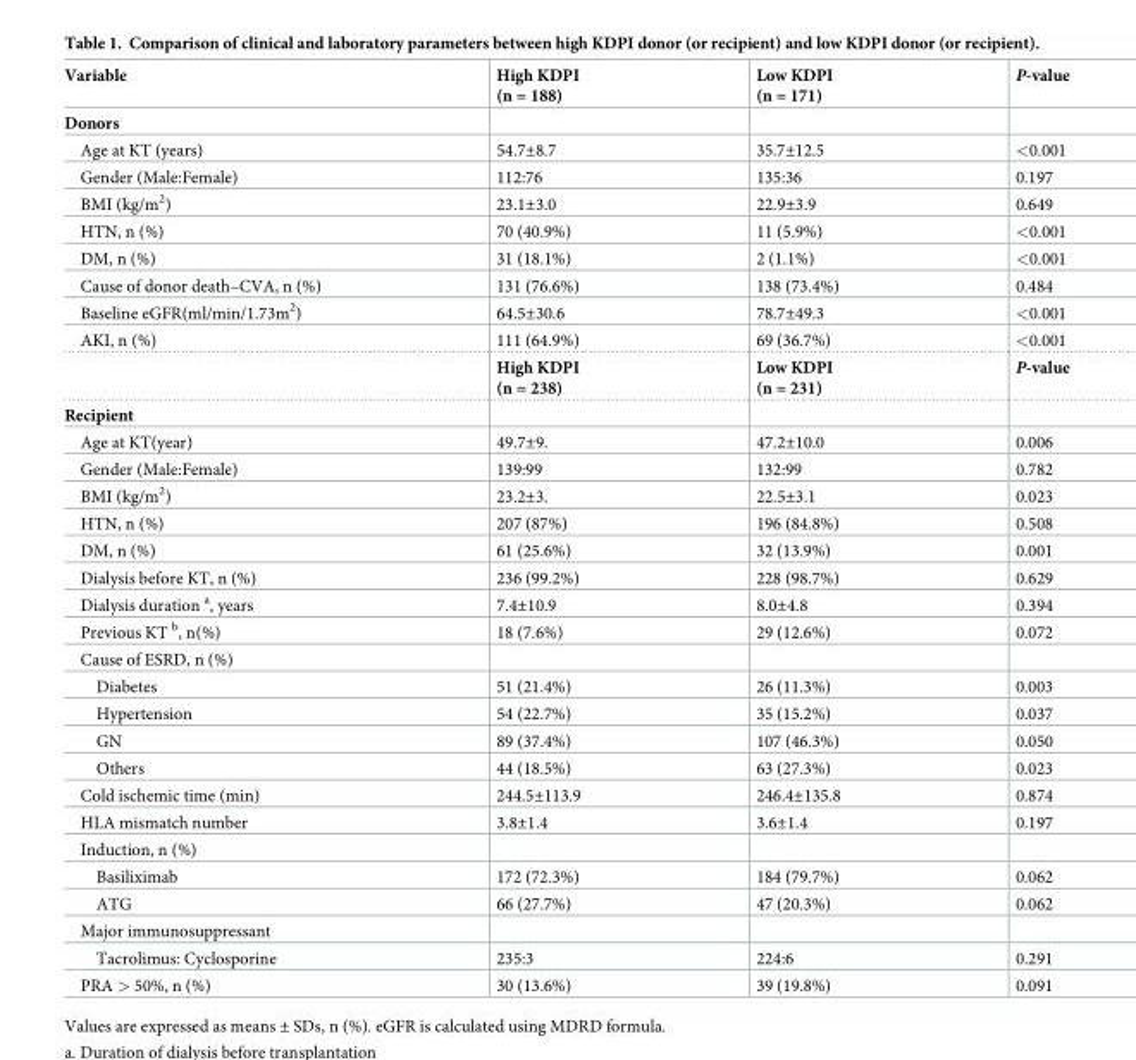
<table><tbody><tr><td>Variable</td><td>High KDPI (n = 188)</td><td>Low KDPI (n = 171)</td><td>P-value</td></tr><tr><td colspan="4">Donors</td></tr><tr><td>Age at KT (years)</td><td>54.7±8.7</td><td>35.7±12.5</td><td>&lt;0.001</td></tr><tr><td>Gender (Male:Female)</td><td>112:76</td><td>135:36</td><td>0.197</td></tr><tr><td>BMI (kg/m<sup>2</sup>)</td><td>23.1±3.0</td><td>22.9±3.9</td><td>0.649</td></tr><tr><td>HTN, n (%)</td><td>70 (40.9%)</td><td>11 (5.9%)</td><td>&lt;0.001</td></tr><tr><td>DM, n (%)</td><td>31 (18.1%)</td><td>2 (1.1%)</td><td>&lt;0.001</td></tr><tr><td>Cause of donor death–CVA, n (%)</td><td>131 (76.6%)</td><td>138 (73.4%)</td><td>0.484</td></tr><tr><td>Baseline eGFR(ml/min/1.73m<sup>2</sup>)</td><td>64.5±30.6</td><td>78.7±49.3</td><td>&lt;0.001</td></tr><tr><td rowspan="2">AKI, n (%)</td><td>111 (64.9%)</td><td>69 (36.7%)</td><td>&lt;0.001</td></tr><tr><td>High KDPI (n = 238)</td><td>Low KDPI (n = 231)</td><td>P-value</td></tr><tr><td colspan="4">Recipient</td></tr><tr><td>Age at KT(year)</td><td>49.7±9.</td><td>47.2±10.0</td><td>0.006</td></tr><tr><td>Gender (Male:Female)</td><td>139:99</td><td>132:99</td><td>0.782</td></tr><tr><td>BMI (kg/m<sup>2</sup>)</td><td>23.2±3.</td><td>22.5±3.1</td><td>0.023</td></tr><tr><td>HTN, n (%)</td><td>207 (87%)</td><td>196 (84.8%)</td><td>0.508</td></tr><tr><td>DM, n (%)</td><td>61 (25.6%)</td><td>32 (13.9%)</td><td>0.001</td></tr><tr><td>Dialysis before KT, n (%)</td><td>236 (99.2%)</td><td>228 (98.7%)</td><td>0.629</td></tr><tr><td>Dialysis duration <sup>a</sup>, years</td><td>7.4±10.9</td><td>8.0±4.8</td><td>0.394</td></tr><tr><td>Previous KT <sup>b</sup>, n(%)</td><td>18 (7.6%)</td><td>29 (12.6%)</td><td>0.072</td></tr><tr><td colspan="4">Cause of ESRD, n (%)</td></tr><tr><td>Diabetes</td><td>51 (21.4%)</td><td>26 (11.3%)</td><td>0.003</td></tr><tr><td>Hypertension</td><td>54 (22.7%)</td><td>35 (15.2%)</td><td>0.037</td></tr><tr><td>GN</td><td>89 (37.4%)</td><td>107 (46.3%)</td><td>0.050</td></tr><tr><td>Others</td><td>44 (18.5%)</td><td>63 (27.3%)</td><td>0.023</td></tr><tr><td>Cold ischemic time (min)</td><td>244.5±113.9</td><td>246.4±135.8</td><td>0.874</td></tr><tr><td>HLA mismatch number</td><td>3.8±1.4</td><td>3.6±1.4</td><td>0.197</td></tr><tr><td colspan="4">Induction, n (%)</td></tr><tr><td>Basiliximab</td><td>172 (72.3%)</td><td>184 (79.7%)</td><td>0.062</td></tr><tr><td>ATG</td><td>66 (27.7%)</td><td>47 (20.3%)</td><td>0.062</td></tr><tr><td colspan="4">Major immunosuppressant</td></tr><tr><td>Tacrolimus: Cyclosporine</td><td>235:3</td><td>224:6</td><td>0.291</td></tr><tr><td>PRA &gt; 50%, n (%)</td><td>30 (13.6%)</td><td>39 (19.8%)</td><td>0.091</td></tr></tbody></table>